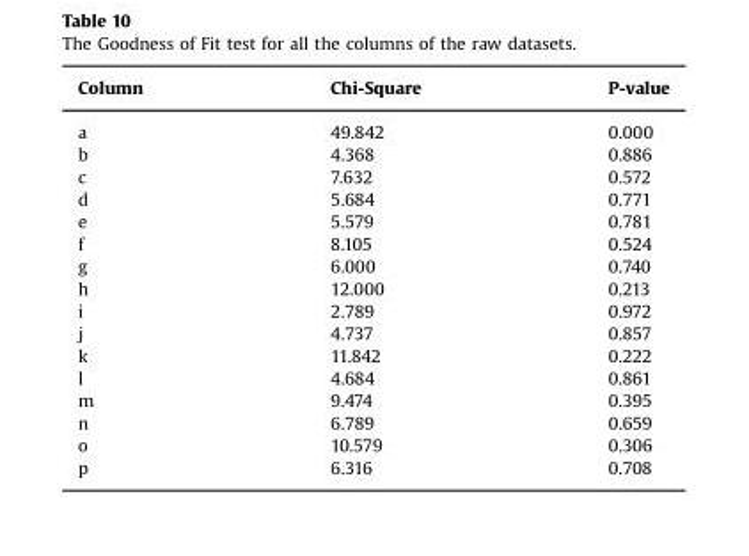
<table><thead><tr><td>Column</td><td>Chi-Square</td><td>P-value</td></tr></thead><tbody><tr><td>a</td><td>49.842</td><td>0.000</td></tr><tr><td>b</td><td>4.368</td><td>0.886</td></tr><tr><td>c</td><td>7.632</td><td>0.572</td></tr><tr><td>d</td><td>5.684</td><td>0.771</td></tr><tr><td>e</td><td>5.579</td><td>0.781</td></tr><tr><td>f</td><td>8.105</td><td>0.524</td></tr><tr><td>g</td><td>6.000</td><td>0.740</td></tr><tr><td>h</td><td>12.000</td><td>0.213</td></tr><tr><td>i</td><td>2.789</td><td>0.972</td></tr><tr><td>j</td><td>4.737</td><td>0.857</td></tr><tr><td>k</td><td>11.842</td><td>0.222</td></tr><tr><td>l</td><td>4.684</td><td>0.861</td></tr><tr><td>m</td><td>9.474</td><td>0.395</td></tr><tr><td>n</td><td>6.789</td><td>0.659</td></tr><tr><td>o</td><td>10.579</td><td>0.306</td></tr><tr><td>p</td><td>6.316</td><td>0.708</td></tr></tbody></table>